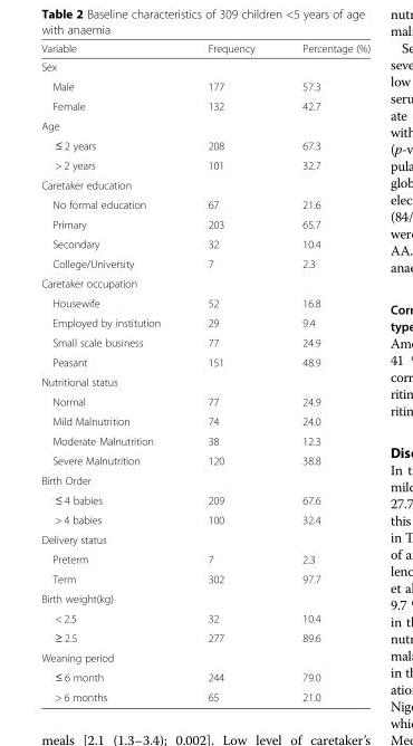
<table><thead><tr><td>Variable</td><td>Frequency</td><td>Percentage (%)</td></tr></thead><tbody><tr><td colspan="3">Sex</td></tr><tr><td>Male</td><td>177</td><td>57.3</td></tr><tr><td>Female</td><td>132</td><td>42.7</td></tr><tr><td colspan="3">Age</td></tr><tr><td>≤ 2 years</td><td>208</td><td>67.3</td></tr><tr><td>&gt; 2 years</td><td>101</td><td>32.7</td></tr><tr><td colspan="3">Caretaker education</td></tr><tr><td>No formal education</td><td>67</td><td>21.6</td></tr><tr><td>Primary</td><td>203</td><td>65.7</td></tr><tr><td>Secondary</td><td>32</td><td>10.4</td></tr><tr><td>College/University</td><td>7</td><td>2.3</td></tr><tr><td colspan="3">Caretaker occupation</td></tr><tr><td>Housewife</td><td>52</td><td>16.8</td></tr><tr><td>Employed by institution</td><td>29</td><td>9.4</td></tr><tr><td>Small scale business</td><td>77</td><td>24.9</td></tr><tr><td>Peasant</td><td>151</td><td>48.9</td></tr><tr><td colspan="3">Nutritional status</td></tr><tr><td>Normal</td><td>77</td><td>24.9</td></tr><tr><td>Mild Malnutrition</td><td>74</td><td>24.0</td></tr><tr><td>Moderate Malnutrition</td><td>38</td><td>12.3</td></tr><tr><td>Severe Malnutrition</td><td>120</td><td>38.8</td></tr><tr><td colspan="3">Birth Order</td></tr><tr><td>≤ 4 babies</td><td>209</td><td>67.6</td></tr><tr><td>&gt; 4 babies</td><td>100</td><td>32.4</td></tr><tr><td colspan="3">Delivery status</td></tr><tr><td>Preterm</td><td>7</td><td>2.3</td></tr><tr><td>Term</td><td>302</td><td>97.7</td></tr><tr><td colspan="3">Birth weight(kg)</td></tr><tr><td>&lt; 2.5</td><td>32</td><td>10.4</td></tr><tr><td>≥ 2.5</td><td>277</td><td>89.6</td></tr><tr><td colspan="3">Weaning period</td></tr><tr><td>≤ 6 month</td><td>244</td><td>79.0</td></tr><tr><td>&gt; 6 months</td><td>65</td><td>21.0</td></tr></tbody></table>